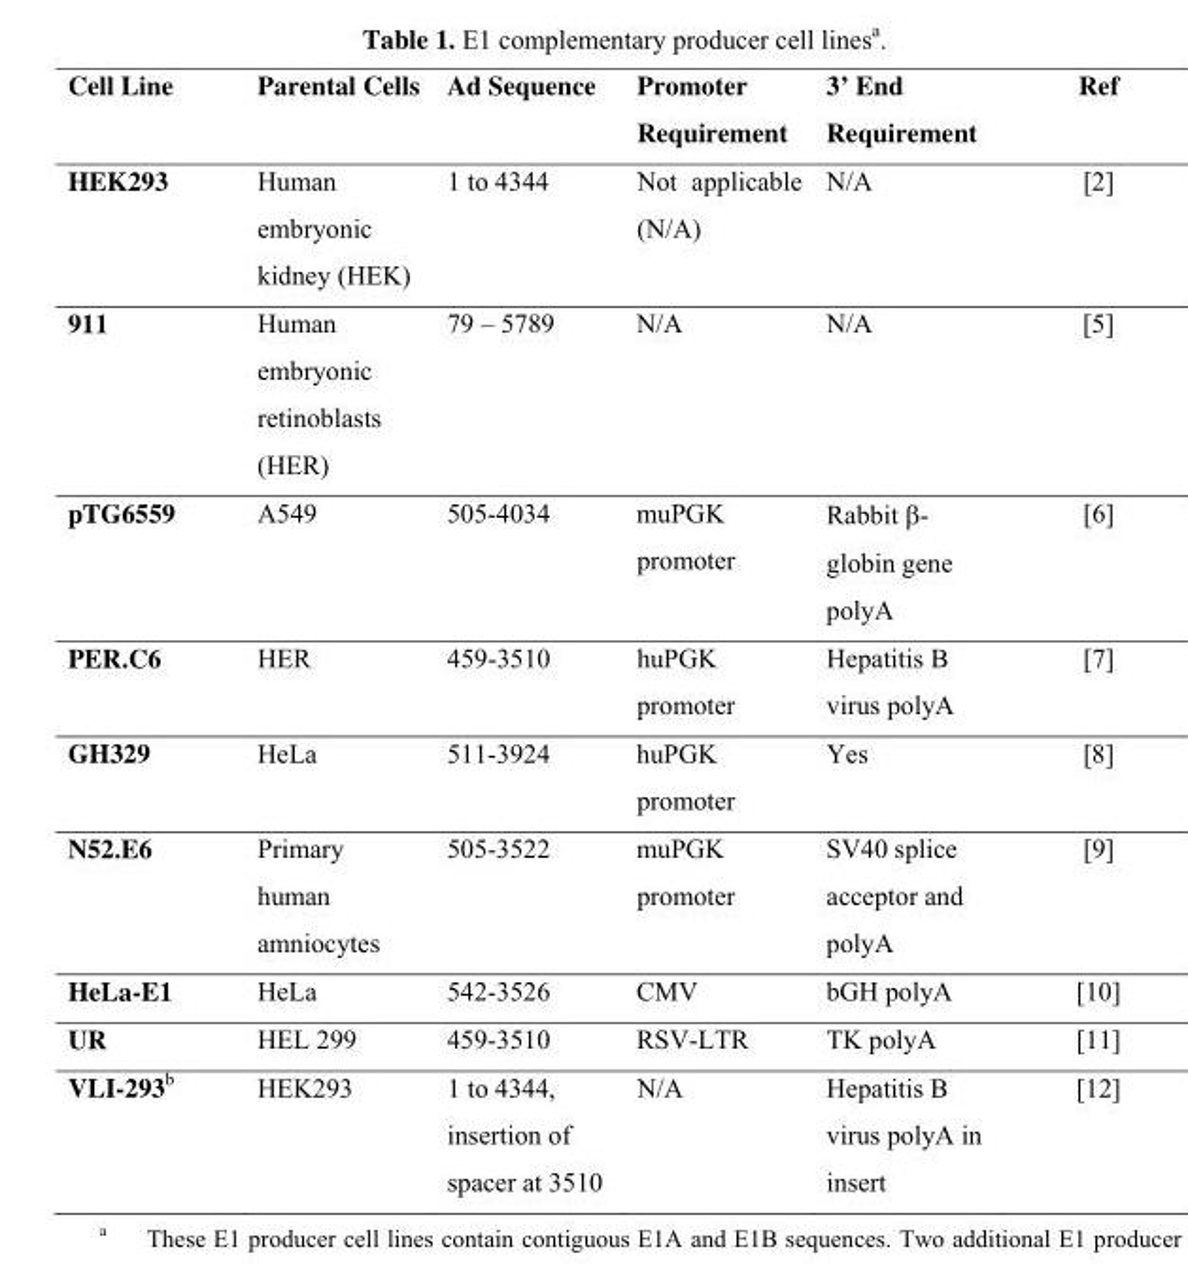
<table><thead><tr><td>Cell Line</td><td>Parental Cells</td><td>Ad Sequence</td><td>Promoter Requirement</td><td>3’ End Requirement</td><td>Ref</td></tr></thead><tbody><tr><td>HEK293</td><td>Human embryonic kidney (HEK)</td><td>1 to 4344</td><td>Not applicable (N/A)</td><td>N/A</td><td>[2]</td></tr><tr><td>911</td><td>Human embryonic retinoblasts (HER)</td><td>79 – 5789</td><td>N/A</td><td>N/A</td><td>[5]</td></tr><tr><td>pTG6559</td><td>A549</td><td>505-4034</td><td>muPGK promoter</td><td>Rabbit β- globin gene polyA</td><td>[6]</td></tr><tr><td>PER.C6</td><td>HER</td><td>459-3510</td><td>huPGK promoter</td><td>Hepatitis B virus polyA</td><td>[7]</td></tr><tr><td>GH329</td><td>HeLa</td><td>511-3924</td><td>huPGK promoter</td><td>Yes</td><td>[8]</td></tr><tr><td>N52.E6</td><td>Primary human amniocytes</td><td>505-3522</td><td>muPGK promoter</td><td>SV40 splice acceptor and polyA</td><td>[9]</td></tr><tr><td>HeLa-E1</td><td>HeLa</td><td>542-3526</td><td>CMV</td><td>bGH polyA</td><td>[10]</td></tr><tr><td>UR</td><td>HEL 299</td><td>459-3510</td><td>RSV-LTR</td><td>TK polyA</td><td>[11]</td></tr><tr><td>VLI-293<sup>b</sup></td><td>HEK293</td><td>1 to 4344, insertion of spacer at 3510</td><td>N/A</td><td>Hepatitis B virus polyA in insert</td><td>[12]</td></tr></tbody></table>